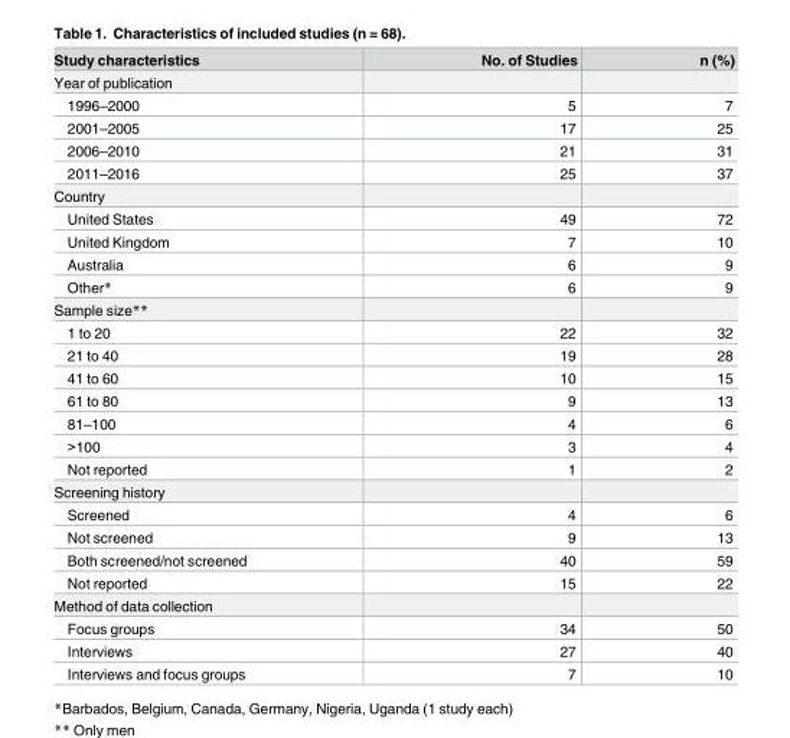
<table><thead><tr><td>Study characteristics</td><td>No. of Studies</td><td>n (%)</td></tr></thead><tbody><tr><td colspan="3">Year of publication</td></tr><tr><td>1996–2000</td><td>5</td><td>7</td></tr><tr><td>2001–2005</td><td>17</td><td>25</td></tr><tr><td>2006–2010</td><td>21</td><td>31</td></tr><tr><td>2011–2016</td><td>25</td><td>37</td></tr><tr><td colspan="3">Country</td></tr><tr><td>United States</td><td>49</td><td>72</td></tr><tr><td>United Kingdom</td><td>7</td><td>10</td></tr><tr><td>Australia</td><td>6</td><td>9</td></tr><tr><td>Other*</td><td>6</td><td>9</td></tr><tr><td colspan="3">Sample size**</td></tr><tr><td>1 to 20</td><td>22</td><td>32</td></tr><tr><td>21 to 40</td><td>19</td><td>28</td></tr><tr><td>41 to 60</td><td>10</td><td>15</td></tr><tr><td>61 to 80</td><td>9</td><td>13</td></tr><tr><td>81–100</td><td>4</td><td>6</td></tr><tr><td>&gt;100</td><td>3</td><td>4</td></tr><tr><td>Not reported</td><td>1</td><td>2</td></tr><tr><td colspan="3">Screening history</td></tr><tr><td>Screened</td><td>4</td><td>6</td></tr><tr><td>Not screened</td><td>9</td><td>13</td></tr><tr><td>Both screened/not screened</td><td>40</td><td>59</td></tr><tr><td>Not reported</td><td>15</td><td>22</td></tr><tr><td colspan="3">Method of data collection</td></tr><tr><td>Focus groups</td><td>34</td><td>50</td></tr><tr><td>Interviews</td><td>27</td><td>40</td></tr><tr><td>Interviews and focus groups</td><td>7</td><td>10</td></tr></tbody></table>